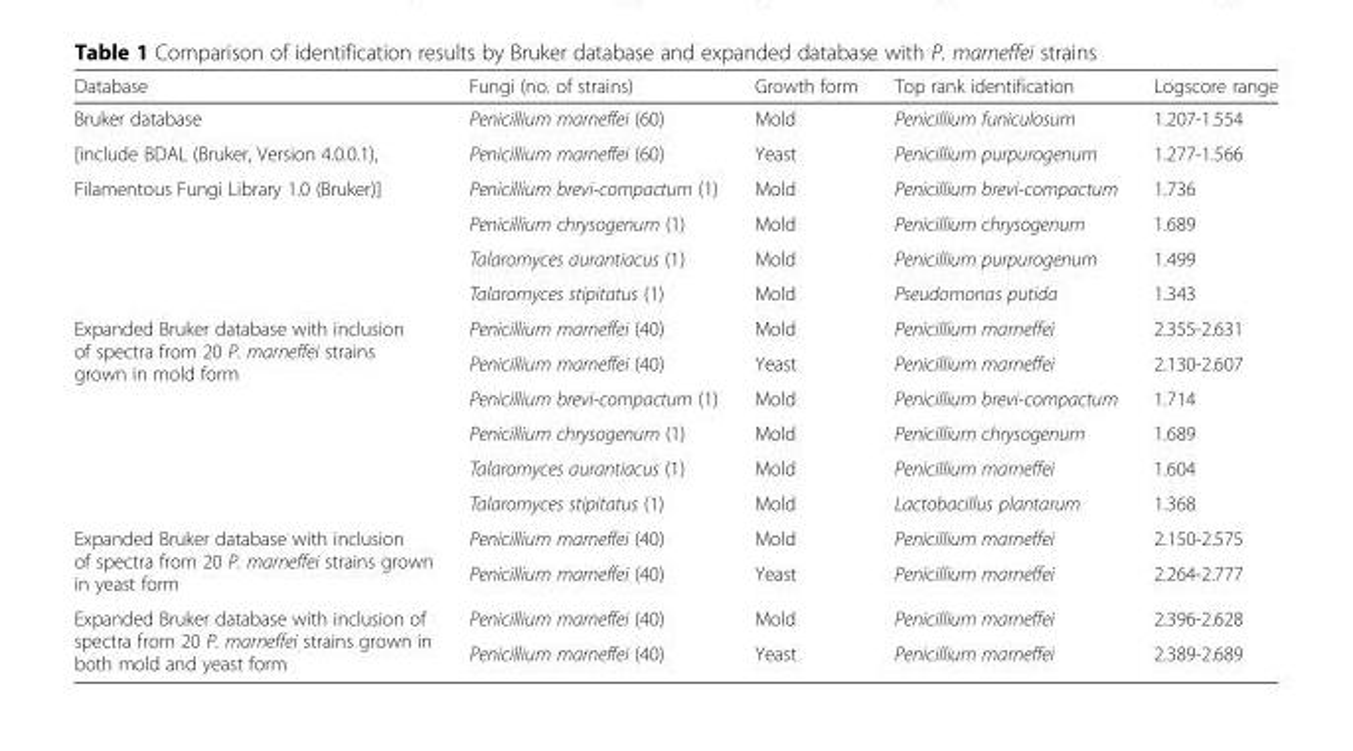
<table><thead><tr><td>Database</td><td>Fungi (no. of strains)</td><td>Growth form</td><td>Top rank identification</td><td>Logscore range</td></tr></thead><tbody><tr><td>Bruker database</td><td>Penicillium marneffei (60)</td><td>Mold</td><td>Penicillium funiculosum</td><td>1.207-1.554</td></tr><tr><td>[include BDAL (Bruker, Version 4.0.0.1),</td><td>Penicillium marneffei (60)</td><td>Yeast</td><td>Penicillium purpurogenum</td><td>1.277-1.566</td></tr><tr><td rowspan="4">Filamentous Fungi Library 1.0 (Bruker)]</td><td>Penicillium brevi-compactum (1)</td><td>Mold</td><td>Penicillium brevi-compactum</td><td>1.736</td></tr><tr><td>Penicillium chrysogenum (1)</td><td>Mold</td><td>Penicillium chrysogenum</td><td>1.689</td></tr><tr><td>Talaromyces aurantiacus (1)</td><td>Mold</td><td>Penicillium purpurogenum</td><td>1.499</td></tr><tr><td>Talaromyces stipitatus (1)</td><td>Mold</td><td>Pseudomonas putida</td><td>1.343</td></tr><tr><td rowspan="6">Expanded Bruker database with inclusion of spectra from 20 P. marneffei strains grown in mold form</td><td>Penicillium marneffei (40)</td><td>Mold</td><td>Penicillium marneffei</td><td>2.355-2.631</td></tr><tr><td>Penicillium marneffei (40)</td><td>Yeast</td><td>Penicillium marneffei</td><td>2.130-2.607</td></tr><tr><td>Penicillium brevi-compactum (1)</td><td>Mold</td><td>Penicillium brevi-compactum</td><td>1.714</td></tr><tr><td>Penicillium chrysogenum (1)</td><td>Mold</td><td>Penicillium chrysogenum</td><td>1.689</td></tr><tr><td>Talaromyces aurantiacus (1)</td><td>Mold</td><td>Penicillium marneffei</td><td>1.604</td></tr><tr><td>Talaromyces stipitatus (1)</td><td>Mold</td><td>Lactobacillus plantarum</td><td>1.368</td></tr><tr><td rowspan="2">Expanded Bruker database with inclusion of spectra from 20 P. marneffei strains grown in yeast form</td><td>Penicillium marneffei (40)</td><td>Mold</td><td>Penicillium marneffei</td><td>2.150-2.575</td></tr><tr><td>Penicillium marneffei (40)</td><td>Yeast</td><td>Penicillium marneffei</td><td>2.264-2.777</td></tr><tr><td rowspan="2">Expanded Bruker database with inclusion of spectra from 20 P. marneffei strains grown in both mold and yeast form</td><td>Penicillium marneffei (40)</td><td>Mold</td><td>Penicillium marneffei</td><td>2.396-2.628</td></tr><tr><td>Penicillium marneffei (40)</td><td>Yeast</td><td>Penicillium marneffei</td><td>2.389-2.689</td></tr></tbody></table>